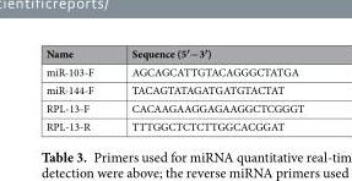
<table><thead><tr><td>Name</td><td>Sequence (5′−3′)</td></tr></thead><tbody><tr><td>miR-103-F</td><td>AGCAGCATTGTACAGGGCTATGA</td></tr><tr><td>miR-144-F</td><td>TACAGTATAGATGATGTACTAT</td></tr><tr><td>RPL-13-F</td><td>CACAAGAAGGAGAAGGCTCGGGT</td></tr><tr><td>RPL-13-R</td><td>TTTGGCTCTCTTGGCACGGAT</td></tr></tbody></table>